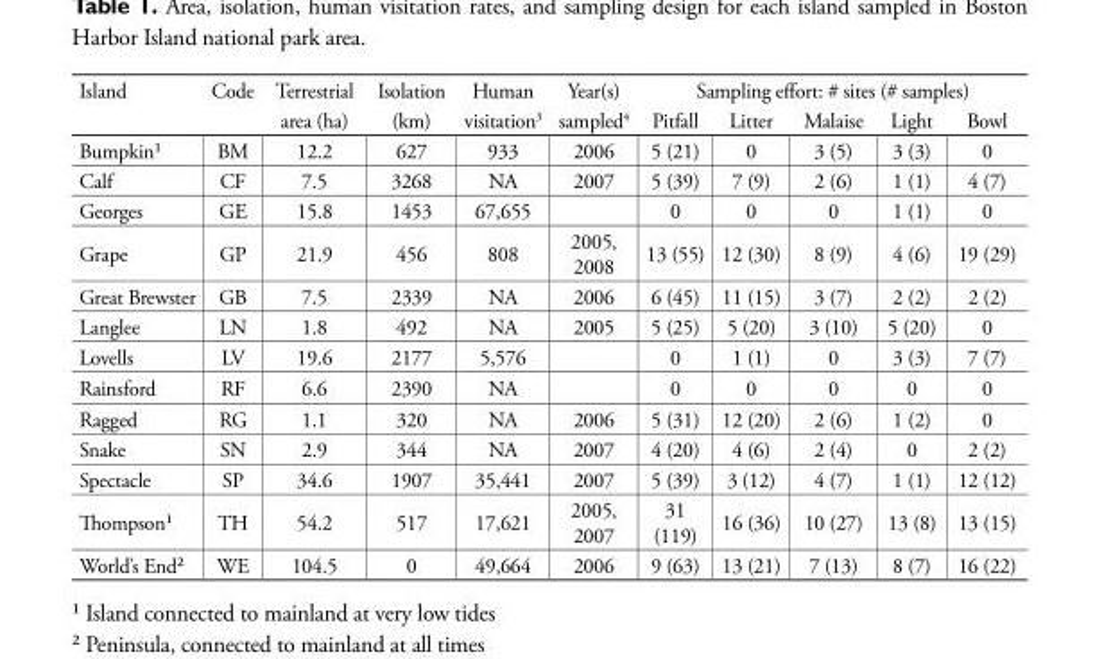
<table><tbody><tr><td rowspan="2">Island</td><td>Code</td><td>Terrestrial</td><td>Isolation</td><td>Human</td><td>Year(s)</td><td colspan="5">Sampling effort: # sites (# samples)</td></tr><tr><td></td><td>area (ha)</td><td>(km)</td><td>visitation3</td><td>sampled4</td><td>Pitfall</td><td>Litter</td><td>Malaise</td><td>Light</td><td>Bowl</td></tr><tr><td>Bumpkin¹</td><td>BM</td><td>12.2</td><td>627</td><td>933</td><td>2006</td><td>5 (21)</td><td>0</td><td>3 (5)</td><td>3 (3)</td><td>0</td></tr><tr><td>Calf</td><td>CF</td><td>7.5</td><td>3268</td><td>NA</td><td>2007</td><td>5 (39)</td><td>7 (9)</td><td>2 (6)</td><td>1 (1)</td><td>4 (7)</td></tr><tr><td>Georges</td><td>GE</td><td>15.8</td><td>1453</td><td>67,655</td><td></td><td>0</td><td>0</td><td>0</td><td>1 (1)</td><td>0</td></tr><tr><td>Grape</td><td>GP</td><td>21.9</td><td>456</td><td>808</td><td>2005, 2008</td><td>13 (55)</td><td>12 (30)</td><td>8 (9)</td><td>4 (6)</td><td>19 (29)</td></tr><tr><td>Great Brewster</td><td>GB</td><td>7.5</td><td>2339</td><td>NA</td><td>2006</td><td>6 (45)</td><td>11 (15)</td><td>3 (7)</td><td>2 (2)</td><td>2 (2)</td></tr><tr><td>Langlee</td><td>LN</td><td>1.8</td><td>492</td><td>NA</td><td>2005</td><td>5 (25)</td><td>5 (20)</td><td>3 (10)</td><td>5 (20)</td><td>0</td></tr><tr><td>Lovells</td><td>LV</td><td>19.6</td><td>2177</td><td>5,576</td><td></td><td>0</td><td>1 (1)</td><td>0</td><td>3 (3)</td><td>7 (7)</td></tr><tr><td>Rainsford</td><td>RF</td><td>6.6</td><td>2390</td><td>NA</td><td></td><td>0</td><td>0</td><td>0</td><td>0</td><td>0</td></tr><tr><td>Ragged</td><td>RG</td><td>1.1</td><td>320</td><td>NA</td><td>2006</td><td>5 (31)</td><td>12 (20)</td><td>2 (6)</td><td>1 (2)</td><td>0</td></tr><tr><td>Snake</td><td>SN</td><td>2.9</td><td>344</td><td>NA</td><td>2007</td><td>4 (20)</td><td>4 (6)</td><td>2 (4)</td><td>0</td><td>2 (2)</td></tr><tr><td>Spectacle</td><td>SP</td><td>34.6</td><td>1907</td><td>35,441</td><td>2007</td><td>5 (39)</td><td>3 (12)</td><td>4 (7)</td><td>1 (1)</td><td>12 (12)</td></tr><tr><td>Thompson¹</td><td>TH</td><td>54.2</td><td>517</td><td>17,621</td><td>2005, 2007</td><td>31 (119)</td><td>16 (36)</td><td>10 (27)</td><td>13 (8)</td><td>13 (15)</td></tr><tr><td>World’s End²</td><td>WE</td><td>104.5</td><td>0</td><td>49,664</td><td>2006</td><td>9 (63)</td><td>13 (21)</td><td>7 (13)</td><td>8 (7)</td><td>16 (22)</td></tr></tbody></table>